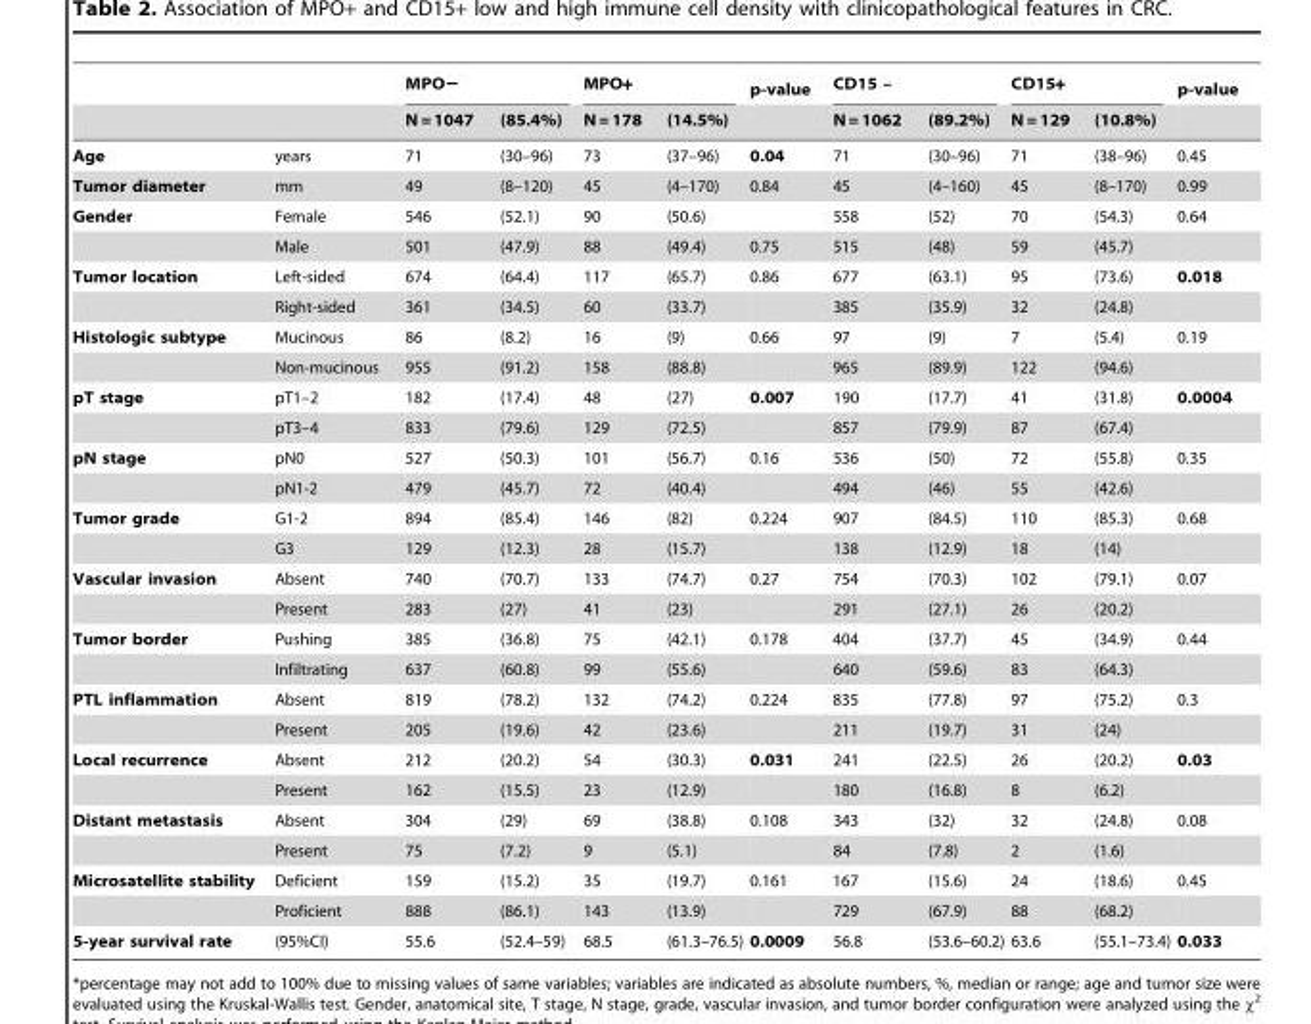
<table><thead><tr><td rowspan="2"></td><td rowspan="2"></td><td colspan="2">MPO−</td><td colspan="2">MPO+</td><td rowspan="2">p-value</td><td colspan="2">CD15 –</td><td colspan="2">CD15+</td><td rowspan="2">p-value</td></tr><tr><td>N = 1047</td><td>(85.4%)</td><td>N = 178</td><td>(14.5%)</td><td>N = 1062</td><td>(89.2%)</td><td>N = 129</td><td>(10.8%)</td></tr></thead><tbody><tr><td>Age</td><td>years</td><td>71</td><td>(30–96)</td><td>73</td><td>(37–96)</td><td>0.04</td><td>71</td><td>(30–96)</td><td>71</td><td>(38–96)</td><td>0.45</td></tr><tr><td>Tumor diameter</td><td>mm</td><td>49</td><td>(8–120)</td><td>45</td><td>(4–170)</td><td>0.84</td><td>45</td><td>(4–160)</td><td>45</td><td>(8–170)</td><td>0.99</td></tr><tr><td rowspan="2">Gender</td><td>Female</td><td>546</td><td>(52.1)</td><td>90</td><td>(50.6)</td><td></td><td>558</td><td>(52)</td><td>70</td><td>(54.3)</td><td>0.64</td></tr><tr><td>Male</td><td>501</td><td>(47.9)</td><td>88</td><td>(49.4)</td><td>0.75</td><td>515</td><td>(48)</td><td>59</td><td>(45.7)</td><td></td></tr><tr><td rowspan="2">Tumor location</td><td>Left-sided</td><td>674</td><td>(64.4)</td><td>117</td><td>(65.7)</td><td>0.86</td><td>677</td><td>(63.1)</td><td>95</td><td>(73.6)</td><td>0.018</td></tr><tr><td>Right-sided</td><td>361</td><td>(34.5)</td><td>60</td><td>(33.7)</td><td></td><td>385</td><td>(35.9)</td><td>32</td><td>(24.8)</td><td></td></tr><tr><td rowspan="2">Histologic subtype</td><td>Mucinous</td><td>86</td><td>(8.2)</td><td>16</td><td>(9)</td><td>0.66</td><td>97</td><td>(9)</td><td>7</td><td>(5.4)</td><td>0.19</td></tr><tr><td>Non-mucinous</td><td>955</td><td>(91.2)</td><td>158</td><td>(88.8)</td><td></td><td>965</td><td>(89.9)</td><td>122</td><td>(94.6)</td><td></td></tr><tr><td rowspan="2">pT stage</td><td>pT1–2</td><td>182</td><td>(17.4)</td><td>48</td><td>(27)</td><td>0.007</td><td>190</td><td>(17.7)</td><td>41</td><td>(31.8)</td><td>0.0004</td></tr><tr><td>pT3–4</td><td>833</td><td>(79.6)</td><td>129</td><td>(72.5)</td><td></td><td>857</td><td>(79.9)</td><td>87</td><td>(67.4)</td><td></td></tr><tr><td rowspan="2">pN stage</td><td>pN0</td><td>527</td><td>(50.3)</td><td>101</td><td>(56.7)</td><td>0.16</td><td>536</td><td>(50)</td><td>72</td><td>(55.8)</td><td>0.35</td></tr><tr><td>pN1-2</td><td>479</td><td>(45.7)</td><td>72</td><td>(40.4)</td><td></td><td>494</td><td>(46)</td><td>55</td><td>(42.6)</td><td></td></tr><tr><td rowspan="2">Tumor grade</td><td>G1-2</td><td>894</td><td>(85.4)</td><td>146</td><td>(82)</td><td>0.224</td><td>907</td><td>(84.5)</td><td>110</td><td>(85.3)</td><td>0.68</td></tr><tr><td>G3</td><td>129</td><td>(12.3)</td><td>28</td><td>(15.7)</td><td></td><td>138</td><td>(12.9)</td><td>18</td><td>(14)</td><td></td></tr><tr><td rowspan="2">Vascular invasion</td><td>Absent</td><td>740</td><td>(70.7)</td><td>133</td><td>(74.7)</td><td>0.27</td><td>754</td><td>(70.3)</td><td>102</td><td>(79.1)</td><td>0.07</td></tr><tr><td>Present</td><td>283</td><td>(27)</td><td>41</td><td>(23)</td><td></td><td>291</td><td>(27.1)</td><td>26</td><td>(20.2)</td><td></td></tr><tr><td rowspan="2">Tumor border</td><td>Pushing</td><td>385</td><td>(36.8)</td><td>75</td><td>(42.1)</td><td>0.178</td><td>404</td><td>(37.7)</td><td>45</td><td>(34.9)</td><td>0.44</td></tr><tr><td>Infiltrating</td><td>637</td><td>(60.8)</td><td>99</td><td>(55.6)</td><td></td><td>640</td><td>(59.6)</td><td>83</td><td>(64.3)</td><td></td></tr><tr><td rowspan="2">PTL inflammation</td><td>Absent</td><td>819</td><td>(78.2)</td><td>132</td><td>(74.2)</td><td>0.224</td><td>835</td><td>(77.8)</td><td>97</td><td>(75.2)</td><td>0.3</td></tr><tr><td>Present</td><td>205</td><td>(19.6)</td><td>42</td><td>(23.6)</td><td></td><td>211</td><td>(19.7)</td><td>31</td><td>(24)</td><td></td></tr><tr><td rowspan="2">Local recurrence</td><td>Absent</td><td>212</td><td>(20.2)</td><td>54</td><td>(30.3)</td><td>0.031</td><td>241</td><td>(22.5)</td><td>26</td><td>(20.2)</td><td>0.03</td></tr><tr><td>Present</td><td>162</td><td>(15.5)</td><td>23</td><td>(12.9)</td><td></td><td>180</td><td>(16.8)</td><td>8</td><td>(6.2)</td><td></td></tr><tr><td rowspan="2">Distant metastasis</td><td>Absent</td><td>304</td><td>(29)</td><td>69</td><td>(38.8)</td><td>0.108</td><td>343</td><td>(32)</td><td>32</td><td>(24.8)</td><td>0.08</td></tr><tr><td>Present</td><td>75</td><td>(7.2)</td><td>9</td><td>(5.1)</td><td></td><td>84</td><td>(7.8)</td><td>2</td><td>(1.6)</td><td></td></tr><tr><td rowspan="2">Microsatellite stability</td><td>Deficient</td><td>159</td><td>(15.2)</td><td>35</td><td>(19.7)</td><td>0.161</td><td>167</td><td>(15.6)</td><td>24</td><td>(18.6)</td><td>0.45</td></tr><tr><td>Proficient</td><td>888</td><td>(86.1)</td><td>143</td><td>(13.9)</td><td></td><td>729</td><td>(67.9)</td><td>88</td><td>(68.2)</td><td></td></tr><tr><td>5-year survival rate</td><td>(95%CI)</td><td>55.6</td><td>(52.4–59)</td><td>68.5</td><td>(61.3–76.5)</td><td>0.0009</td><td>56.8</td><td>(53.6–60.2)</td><td>63.6</td><td>(55.1–73.4)</td><td>0.033</td></tr></tbody></table>